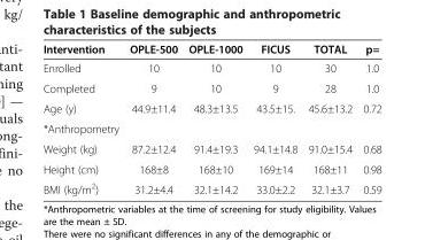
<table><thead><tr><td>Intervention</td><td>OPLE-500</td><td>OPLE-1000</td><td>FICUS</td><td>TOTAL</td><td>p=</td></tr></thead><tbody><tr><td>Enrolled</td><td>10</td><td>10</td><td>10</td><td>30</td><td>1.0</td></tr><tr><td>Completed</td><td>9</td><td>10</td><td>9</td><td>28</td><td>1.0</td></tr><tr><td>Age (y)</td><td>44.9±11.4</td><td>48.3±13.5</td><td>43.5±15.</td><td>45.6±13.2</td><td>0.72</td></tr><tr><td colspan="6">*Anthropometry</td></tr><tr><td>Weight (kg)</td><td>87.2±12.4</td><td>91.4±19.3</td><td>94.1±14.8</td><td>91.0±15.4</td><td>0.68</td></tr><tr><td>Height (cm)</td><td>168±8</td><td>168±10</td><td>169±14</td><td>168±11</td><td>0.98</td></tr><tr><td>BMI (kg/m<sup>2</sup>)</td><td>31.2±4.4</td><td>32.1±14.2</td><td>33.0±2.2</td><td>32.1±3.7</td><td>0.59</td></tr></tbody></table>